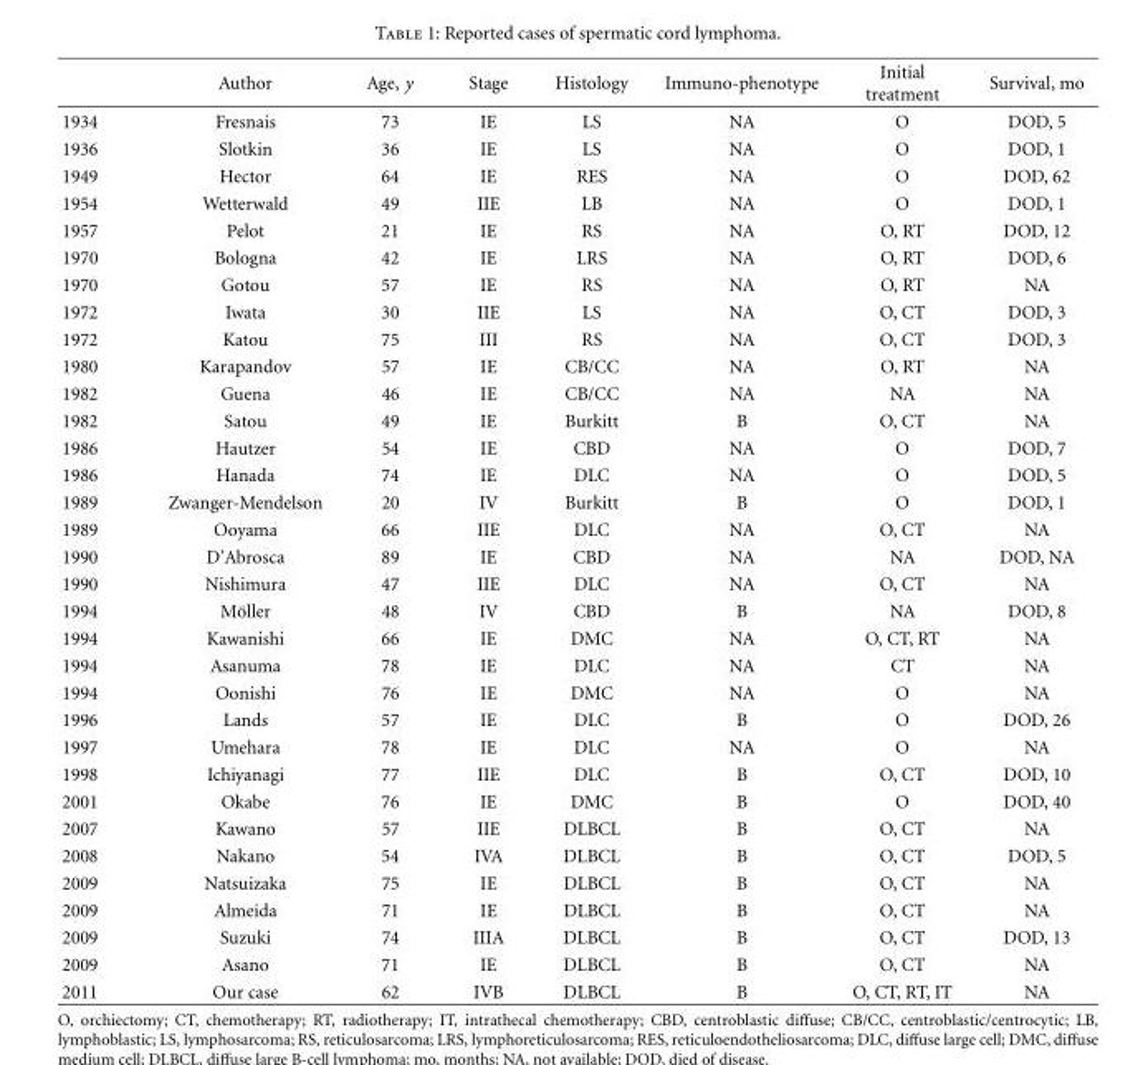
<table><thead><tr><td></td><td>Author</td><td>Age, y</td><td>Stage</td><td>Histology</td><td>Immuno-phenotype</td><td>Initial treatment</td><td>Survival, mo</td></tr></thead><tbody><tr><td>1934</td><td>Fresnais</td><td>73</td><td>IE</td><td>LS</td><td>NA</td><td>O</td><td>DOD, 5</td></tr><tr><td>1936</td><td>Slotkin</td><td>36</td><td>IE</td><td>LS</td><td>NA</td><td>O</td><td>DOD, 1</td></tr><tr><td>1949</td><td>Hector</td><td>64</td><td>IE</td><td>RES</td><td>NA</td><td>O</td><td>DOD, 62</td></tr><tr><td>1954</td><td>Wetterwald</td><td>49</td><td>IIE</td><td>LB</td><td>NA</td><td>O</td><td>DOD, 1</td></tr><tr><td>1957</td><td>Pelot</td><td>21</td><td>IE</td><td>RS</td><td>NA</td><td>O, RT</td><td>DOD, 12</td></tr><tr><td>1970</td><td>Bologna</td><td>42</td><td>IE</td><td>LRS</td><td>NA</td><td>O, RT</td><td>DOD, 6</td></tr><tr><td>1970</td><td>Gotou</td><td>57</td><td>IE</td><td>RS</td><td>NA</td><td>O, RT</td><td>NA</td></tr><tr><td>1972</td><td>Iwata</td><td>30</td><td>IIE</td><td>LS</td><td>NA</td><td>O, CT</td><td>DOD, 3</td></tr><tr><td>1972</td><td>Katou</td><td>75</td><td>III</td><td>RS</td><td>NA</td><td>O, CT</td><td>DOD, 3</td></tr><tr><td>1980</td><td>Karapandov</td><td>57</td><td>IE</td><td>CB/CC</td><td>NA</td><td>O, RT</td><td>NA</td></tr><tr><td>1982</td><td>Guena</td><td>46</td><td>IE</td><td>CB/CC</td><td>NA</td><td>NA</td><td>NA</td></tr><tr><td>1982</td><td>Satou</td><td>49</td><td>IE</td><td>Burkitt</td><td>B</td><td>O, CT</td><td>NA</td></tr><tr><td>1986</td><td>Hautzer</td><td>54</td><td>IE</td><td>CBD</td><td>NA</td><td>O</td><td>DOD, 7</td></tr><tr><td>1986</td><td>Hanada</td><td>74</td><td>IE</td><td>DLC</td><td>NA</td><td>O</td><td>DOD, 5</td></tr><tr><td>1989</td><td>Zwanger-Mendelson</td><td>20</td><td>IV</td><td>Burkitt</td><td>B</td><td>O</td><td>DOD, 1</td></tr><tr><td>1989</td><td>Ooyama</td><td>66</td><td>IIE</td><td>DLC</td><td>NA</td><td>O, CT</td><td>NA</td></tr><tr><td>1990</td><td>D’Abrosca</td><td>89</td><td>IE</td><td>CBD</td><td>NA</td><td>NA</td><td>DOD, NA</td></tr><tr><td>1990</td><td>Nishimura</td><td>47</td><td>IIE</td><td>DLC</td><td>NA</td><td>O, CT</td><td>NA</td></tr><tr><td>1994</td><td>M¨oller</td><td>48</td><td>IV</td><td>CBD</td><td>B</td><td>NA</td><td>DOD, 8</td></tr><tr><td>1994</td><td>Kawanishi</td><td>66</td><td>IE</td><td>DMC</td><td>NA</td><td>O, CT, RT</td><td>NA</td></tr><tr><td>1994</td><td>Asanuma</td><td>78</td><td>IE</td><td>DLC</td><td>NA</td><td>CT</td><td>NA</td></tr><tr><td>1994</td><td>Oonishi</td><td>76</td><td>IE</td><td>DMC</td><td>NA</td><td>O</td><td>NA</td></tr><tr><td>1996</td><td>Lands</td><td>57</td><td>IE</td><td>DLC</td><td>B</td><td>O</td><td>DOD, 26</td></tr><tr><td>1997</td><td>Umehara</td><td>78</td><td>IE</td><td>DLC</td><td>NA</td><td>O</td><td>NA</td></tr><tr><td>1998</td><td>Ichiyanagi</td><td>77</td><td>IIE</td><td>DLC</td><td>B</td><td>O, CT</td><td>DOD, 10</td></tr><tr><td>2001</td><td>Okabe</td><td>76</td><td>IE</td><td>DMC</td><td>B</td><td>O</td><td>DOD, 40</td></tr><tr><td>2007</td><td>Kawano</td><td>57</td><td>IIE</td><td>DLBCL</td><td>B</td><td>O, CT</td><td>NA</td></tr><tr><td>2008</td><td>Nakano</td><td>54</td><td>IVA</td><td>DLBCL</td><td>B</td><td>O, CT</td><td>DOD, 5</td></tr><tr><td>2009</td><td>Natsuizaka</td><td>75</td><td>IE</td><td>DLBCL</td><td>B</td><td>O, CT</td><td>NA</td></tr><tr><td>2009</td><td>Almeida</td><td>71</td><td>IE</td><td>DLBCL</td><td>B</td><td>O, CT</td><td>NA</td></tr><tr><td>2009</td><td>Suzuki</td><td>74</td><td>IIIA</td><td>DLBCL</td><td>B</td><td>O, CT</td><td>DOD, 13</td></tr><tr><td>2009</td><td>Asano</td><td>71</td><td>IE</td><td>DLBCL</td><td>B</td><td>O, CT</td><td>NA</td></tr><tr><td>2011</td><td>Our case</td><td>62</td><td>IVB</td><td>DLBCL</td><td>B</td><td>O, CT, RT, IT</td><td>NA</td></tr></tbody></table>